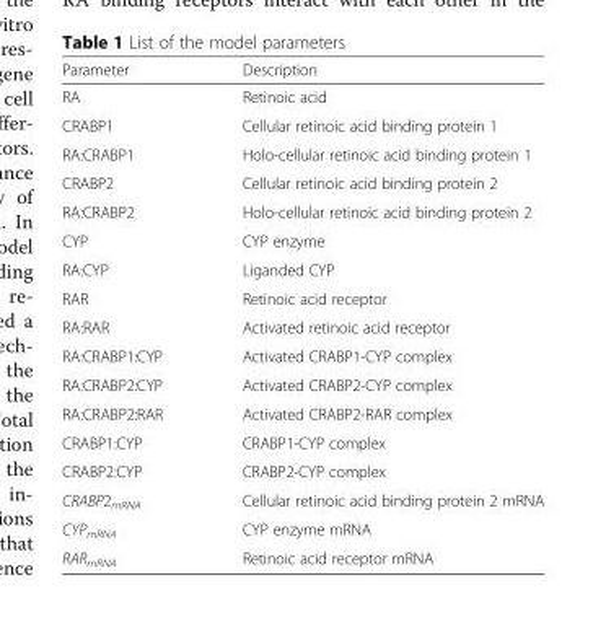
<table><thead><tr><td>Parameter</td><td>Description</td></tr></thead><tbody><tr><td>RA</td><td>Retinoic acid</td></tr><tr><td>CRABP1</td><td>Cellular retinoic acid binding protein 1</td></tr><tr><td>RA:CRABP1</td><td>Holo-cellular retinoic acid binding protein 1</td></tr><tr><td>CRABP2</td><td>Cellular retinoic acid binding protein 2</td></tr><tr><td>RA:CRABP2</td><td>Holo-cellular retinoic acid binding protein 2</td></tr><tr><td>CYP</td><td>CYP enzyme</td></tr><tr><td>RA:CYP</td><td>Liganded CYP</td></tr><tr><td>RAR</td><td>Retinoic acid receptor</td></tr><tr><td>RA:RAR</td><td>Activated retinoic acid receptor</td></tr><tr><td>RA:CRABP1:CYP</td><td>Activated CRABP1-CYP complex</td></tr><tr><td>RA:CRABP2:CYP</td><td>Activated CRABP2-CYP complex</td></tr><tr><td>RA:CRABP2:RAR</td><td>Activated CRABP2-RAR complex</td></tr><tr><td>CRABP1:CYP</td><td>CRABP1-CYP complex</td></tr><tr><td>CRABP2:CYP</td><td>CRABP2-CYP complex</td></tr><tr><td>CRABP2<sub>mRNA</sub></td><td>Cellular retinoic acid binding protein 2 mRNA</td></tr><tr><td>CYP<sub>mRNA</sub></td><td>CYP enzyme mRNA</td></tr><tr><td>RAR<sub>mRNA</sub></td><td>Retinoic acid receptor mRNA</td></tr></tbody></table>